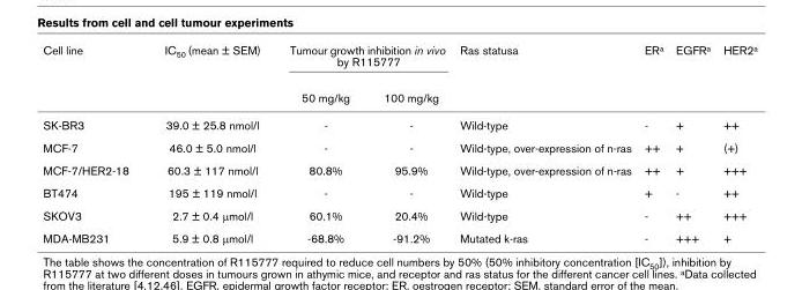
<table><thead><tr><td rowspan="2">Cell line</td><td rowspan="2">IC50 (mean ± SEM)</td><td colspan="2">Tumour growth inhibition in vivo by R115777</td><td rowspan="2">Ras statusa</td><td rowspan="2">ERa</td><td rowspan="2">EGFRa</td><td rowspan="2">HER2a</td></tr><tr><td>50 mg/kg</td><td>100 mg/kg</td></tr></thead><tbody><tr><td>SK-BR3</td><td>39.0 ± 25.8 nmol/l</td><td>-</td><td>-</td><td>Wild-type</td><td>-</td><td>+</td><td>++</td></tr><tr><td>MCF-7</td><td>46.0 ± 5.0 nmol/l</td><td>-</td><td>-</td><td>Wild-type, over-expression of n-ras</td><td>++</td><td>+</td><td>(+)</td></tr><tr><td>MCF-7/HER2-18</td><td>60.3 ± 117 nmol/l</td><td>80.8%</td><td>95.9%</td><td>Wild-type, over-expression of n-ras</td><td>++</td><td>+</td><td>+++</td></tr><tr><td>BT474</td><td>195 ± 119 nmol/l</td><td>-</td><td>-</td><td>Wild-type</td><td>+</td><td>-</td><td>++</td></tr><tr><td>SKOV3</td><td>2.7 ± 0.4 µmol/l</td><td>60.1%</td><td>20.4%</td><td>Wild-type</td><td>-</td><td>++</td><td>+++</td></tr><tr><td>MDA-MB231</td><td>5.9 ± 0.8 µmol/l</td><td>-68.8%</td><td>-91.2%</td><td>Mutated k-ras</td><td>-</td><td>+++</td><td>+</td></tr></tbody></table>